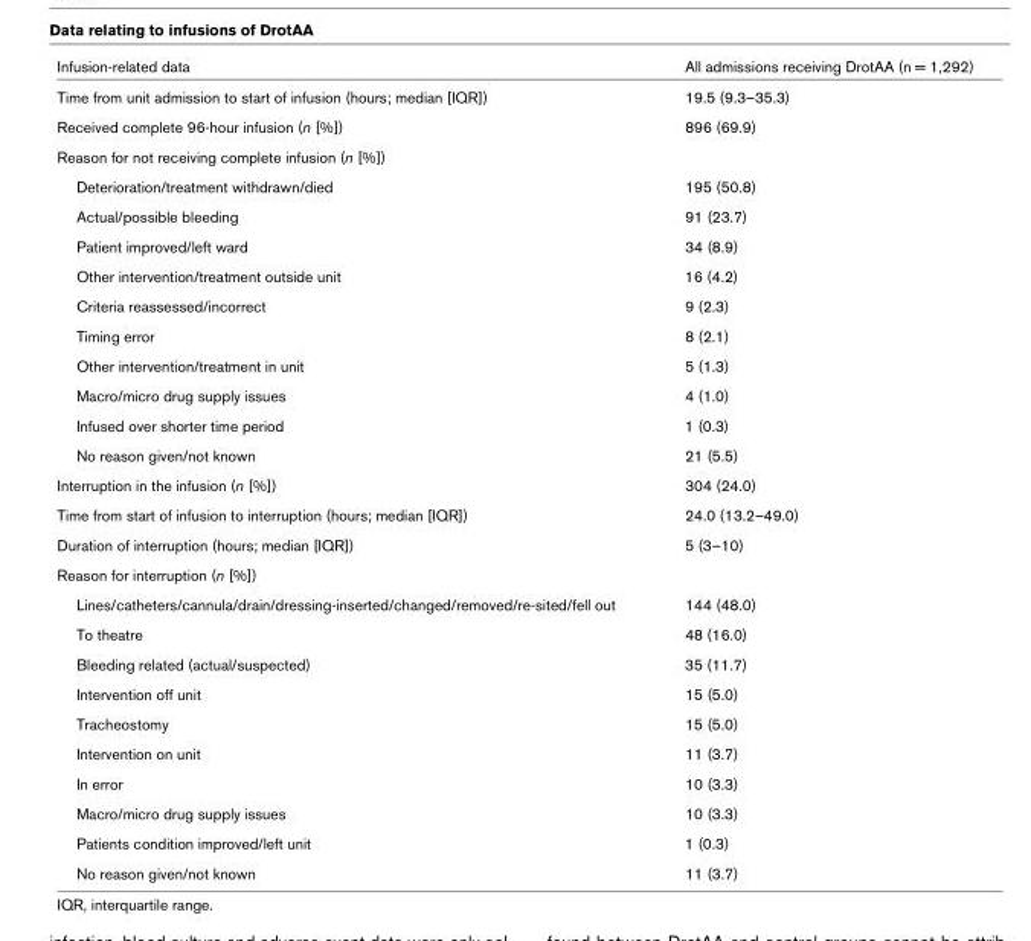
<table><thead><tr><td>Infusion-related data</td><td>All admissions receiving DrotAA (n = 1,292)</td></tr></thead><tbody><tr><td>Time from unit admission to start of infusion (hours; median [IQR])</td><td>19.5 (9.3–35.3)</td></tr><tr><td>Received complete 96-hour infusion (n [%])</td><td>896 (69.9)</td></tr><tr><td colspan="2">Reason for not receiving complete infusion (n [%])</td></tr><tr><td>Deterioration/treatment withdrawn/died</td><td>195 (50.8)</td></tr><tr><td>Actual/possible bleeding</td><td>91 (23.7)</td></tr><tr><td>Patient improved/left ward</td><td>34 (8.9)</td></tr><tr><td>Other intervention/treatment outside unit</td><td>16 (4.2)</td></tr><tr><td>Criteria reassessed/incorrect</td><td>9 (2.3)</td></tr><tr><td>Timing error</td><td>8 (2.1)</td></tr><tr><td>Other intervention/treatment in unit</td><td>5 (1.3)</td></tr><tr><td>Macro/micro drug supply issues</td><td>4 (1.0)</td></tr><tr><td>Infused over shorter time period</td><td>1 (0.3)</td></tr><tr><td>No reason given/not known</td><td>21 (5.5)</td></tr><tr><td>Interruption in the infusion (n [%])</td><td>304 (24.0)</td></tr><tr><td>Time from start of infusion to interruption (hours; median [IQR])</td><td>24.0 (13.2–49.0)</td></tr><tr><td>Duration of interruption (hours; median [IQR])</td><td>5 (3–10)</td></tr><tr><td colspan="2">Reason for interruption (n [%])</td></tr><tr><td>Lines/catheters/cannula/drain/dressing-inserted/changed/removed/re-sited/fell out</td><td>144 (48.0)</td></tr><tr><td>To theatre</td><td>48 (16.0)</td></tr><tr><td>Bleeding related (actual/suspected)</td><td>35 (11.7)</td></tr><tr><td>Intervention off unit</td><td>15 (5.0)</td></tr><tr><td>Tracheostomy</td><td>15 (5.0)</td></tr><tr><td>Intervention on unit</td><td>11 (3.7)</td></tr><tr><td>In error</td><td>10 (3.3)</td></tr><tr><td>Macro/micro drug supply issues</td><td>10 (3.3)</td></tr><tr><td>Patients condition improved/left unit</td><td>1 (0.3)</td></tr><tr><td>No reason given/not known</td><td>11 (3.7)</td></tr></tbody></table>